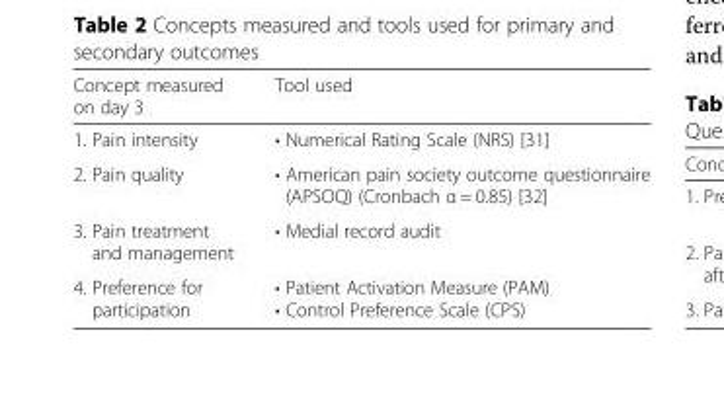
<table><thead><tr><td>Concept measured on day 3</td><td>Tool used</td></tr></thead><tbody><tr><td>1. Pain intensity</td><td>• Numerical Rating Scale (NRS) [31]</td></tr><tr><td>2. Pain quality</td><td>• American pain society outcome questionnaire (APSOQ) (Cronbach α = 0.85) [32]</td></tr><tr><td>3. Pain treatment and management</td><td>• Medial record audit</td></tr><tr><td>4. Preference for participation</td><td>• Patient Activation Measure (PAM) • Control Preference Scale (CPS)</td></tr></tbody></table>